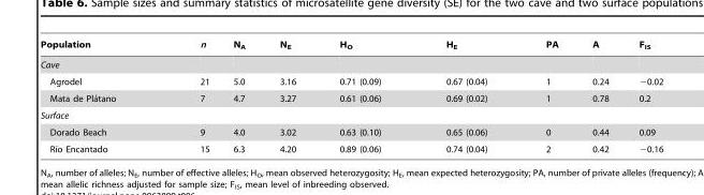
<table><thead><tr><td>Population</td><td>n</td><td>N<sub>A</sub></td><td>N<sub>E</sub></td><td>H<sub>O</sub></td><td>H<sub>E</sub></td><td>PA</td><td>A</td><td>F<sub>IS</sub></td></tr></thead><tbody><tr><td colspan="9">Cave</td></tr><tr><td>Agrodel</td><td>21</td><td>5.0</td><td>3.16</td><td>0.71 (0.09)</td><td>0.67 (0.04)</td><td>1</td><td>0.24</td><td>−0.02</td></tr><tr><td>Mata de Pla´tano</td><td>7</td><td>4.7</td><td>3.27</td><td>0.61 (0.06)</td><td>0.69 (0.02)</td><td>1</td><td>0.78</td><td>0.2</td></tr><tr><td colspan="9">Surface</td></tr><tr><td>Dorado Beach</td><td>9</td><td>4.0</td><td>3.02</td><td>0.63 (0.10)</td><td>0.65 (0.06)</td><td>0</td><td>0.44</td><td>0.09</td></tr><tr><td>Rı´o Encantado</td><td>15</td><td>6.3</td><td>4.20</td><td>0.89 (0.06)</td><td>0.74 (0.04)</td><td>2</td><td>0.42</td><td>−0.16</td></tr></tbody></table>